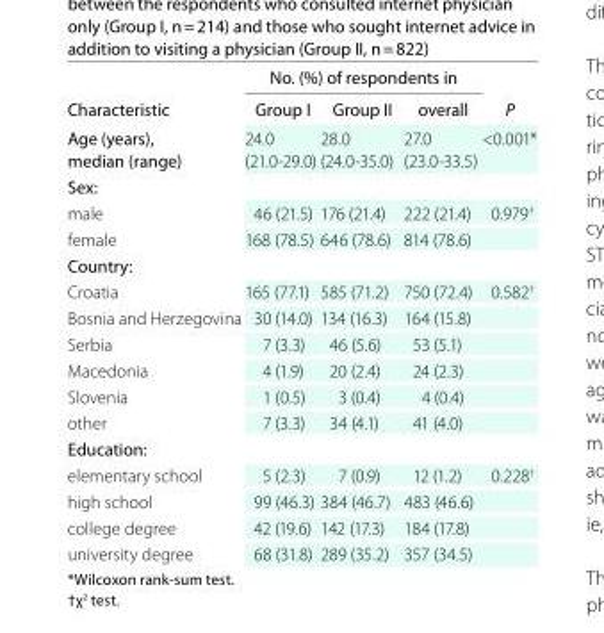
<table><thead><tr><td rowspan="2">Characteristic</td><td colspan="3">No. (%) of respondents in</td><td rowspan="2">P</td></tr><tr><td>Group I</td><td>Group II</td><td>overall</td></tr></thead><tbody><tr><td>Age (years), median (range)</td><td>24.0 (21.0-29.0)</td><td>28.0 (24.0-35.0)</td><td>27.0 (23.0-33.5)</td><td>&lt;0.001*</td></tr><tr><td colspan="5">sex:</td></tr><tr><td>male</td><td>46 (21.5)</td><td>176 (21.4)</td><td>222 (21.4)</td><td>0.979<sup>†</sup></td></tr><tr><td>female</td><td>168 (78.5)</td><td>646 (78.6)</td><td>814 (78.6)</td><td></td></tr><tr><td colspan="5">Country:</td></tr><tr><td>Croatia</td><td>165 (77.1)</td><td>585 (71.2)</td><td>750 (72.4)</td><td>0.582<sup>†</sup></td></tr><tr><td>Bosnia and Herzegovina</td><td>30 (14.0)</td><td>134 (16.3)</td><td>164 (15.8)</td><td></td></tr><tr><td>Serbia</td><td>7 (3.3)</td><td>46 (5.6)</td><td>53 (5.1)</td><td></td></tr><tr><td>Macedonia</td><td>4 (1.9)</td><td>20 (2.4)</td><td>24 (2.3)</td><td></td></tr><tr><td>Slovenia</td><td>1 (0.5)</td><td>3 (0.4)</td><td>4 (0.4)</td><td></td></tr><tr><td>other</td><td>7 (3.3)</td><td>34 (4.1)</td><td>41 (4.0)</td><td></td></tr><tr><td colspan="5">education:</td></tr><tr><td>elementary school</td><td>5 (2.3)</td><td>7 (0.9)</td><td>12 (1.2)</td><td>0.228<sup>†</sup></td></tr><tr><td>high school</td><td>99 (46.3)</td><td>384 (46.7)</td><td>483 (46.6)</td><td></td></tr><tr><td>college degree</td><td>42 (19.6)</td><td>142 (17.3)</td><td>184 (17.8)</td><td></td></tr><tr><td>university degree</td><td>68 (31.8)</td><td>289 (35.2)</td><td>357 (34.5)</td><td></td></tr></tbody></table>